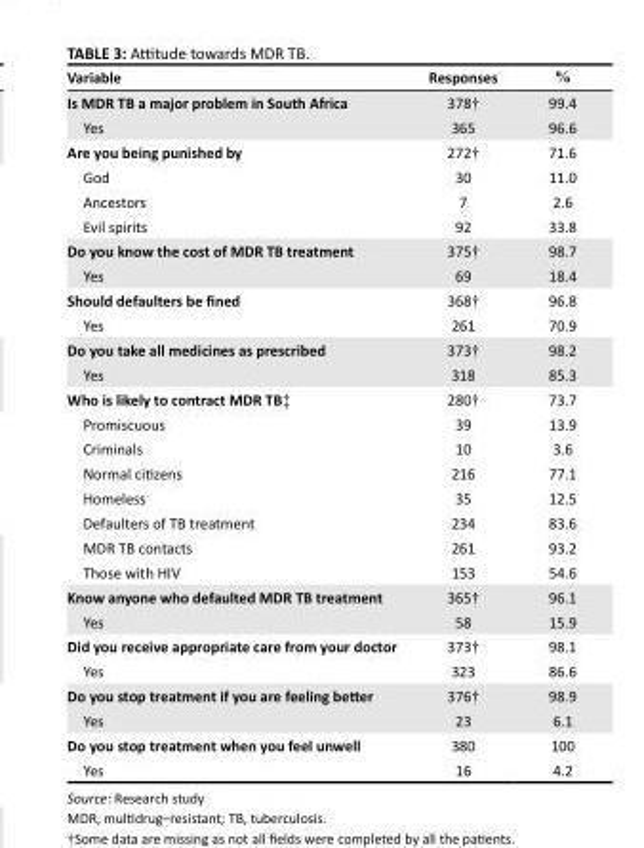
<table><thead><tr><td>Variable</td><td>Responses</td><td>%</td></tr></thead><tbody><tr><td>Is MDR TB a major problem in South Africa</td><td>378†</td><td>99.4</td></tr><tr><td>Yes</td><td>365</td><td>96.6</td></tr><tr><td>Are you being punished by</td><td>272†</td><td>71.6</td></tr><tr><td>God</td><td>30</td><td>11.0</td></tr><tr><td>Ancestors</td><td>7</td><td>2.6</td></tr><tr><td>Evil spirits</td><td>92</td><td>33.8</td></tr><tr><td>Do you know the cost of MDR TB treatment</td><td>375†</td><td>98.7</td></tr><tr><td>Yes</td><td>69</td><td>18.4</td></tr><tr><td>Should defaulters be fined</td><td>368†</td><td>96.8</td></tr><tr><td>Yes</td><td>261</td><td>70.9</td></tr><tr><td>Do you take all medicines as prescribed</td><td>373†</td><td>98.2</td></tr><tr><td>Yes</td><td>318</td><td>85.3</td></tr><tr><td>Who is likely to contract MDR TB‡</td><td>280†</td><td>73.7</td></tr><tr><td>Promiscuous</td><td>39</td><td>13.9</td></tr><tr><td>Criminals</td><td>10</td><td>3.6</td></tr><tr><td>Normal citizens</td><td>216</td><td>77.1</td></tr><tr><td>Homeless</td><td>35</td><td>12.5</td></tr><tr><td>Defaulters of TB treatment</td><td>234</td><td>83.6</td></tr><tr><td>MDR TB contacts</td><td>261</td><td>93.2</td></tr><tr><td>Those with HIV</td><td>153</td><td>54.6</td></tr><tr><td>Know anyone who defaulted MDR TB treatment</td><td>365†</td><td>96.1</td></tr><tr><td>Yes</td><td>58</td><td>15.9</td></tr><tr><td>Did you receive appropriate care from your doctor</td><td>373†</td><td>98.1</td></tr><tr><td>Yes</td><td>323</td><td>86.6</td></tr><tr><td>Do you stop treatment if you are feeling better</td><td>376†</td><td>98.9</td></tr><tr><td>Yes</td><td>23</td><td>6.1</td></tr><tr><td>Do you stop treatment when you feel unwell</td><td>380</td><td>100</td></tr><tr><td>Yes</td><td>16</td><td>4.2</td></tr></tbody></table>